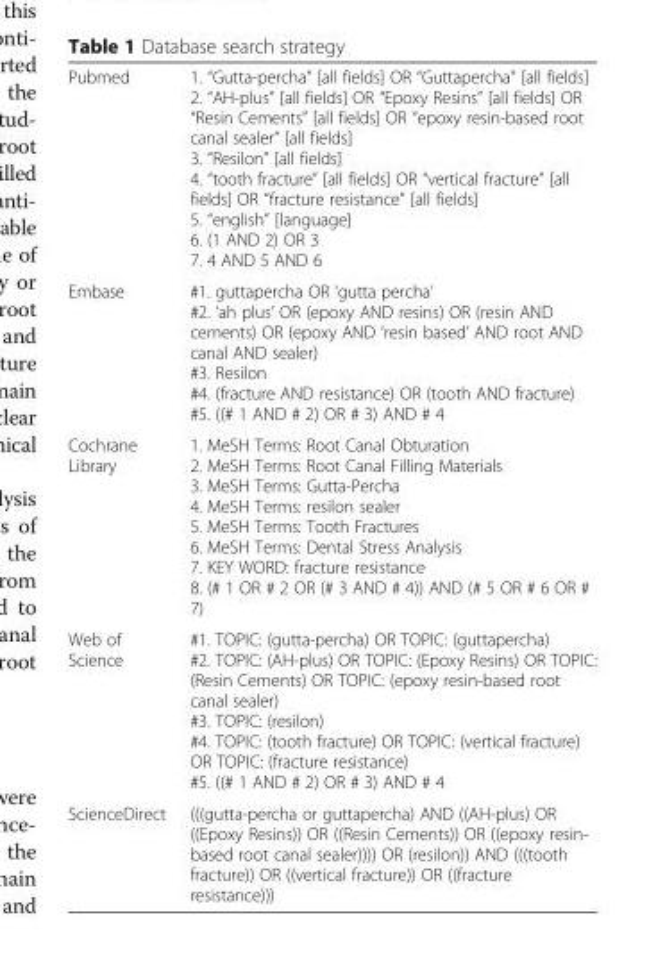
<table><tbody><tr><td>Pubmed</td><td>1. “Gutta-percha” [all fields] OR “Guttapercha” [all fields] 2. “AH-plus” [all fields] OR “Epoxy Resins” [all fields] OR “Resin Cements” [all fields] OR “epoxy resin-based root canal sealer” [all fields] 3. “Resilon” [all fields] 4. “tooth fracture” [all fields] OR “vertical fracture” [all fields] OR “fracture resistance” [all fields] 5. “english” [language] 6. (1 AND 2) OR 3 7. 4 AND 5 AND 6</td></tr><tr><td>Embase</td><td>#1. guttapercha OR ‘gutta percha’ #2. ‘ah plus’ OR (epoxy AND resins) OR (resin AND cements) OR (epoxy AND ‘resin based’ AND root AND canal AND sealer) #3. Resilon #4. (fracture AND resistance) OR (tooth AND fracture) #5. ((# 1 AND # 2) OR # 3) AND # 4</td></tr><tr><td>Cochrane Library</td><td>1. MeSH Terms: Root Canal Obturation 2. MeSH Terms: Root Canal Filling Materials 3. MeSH Terms: Gutta-Percha 4. MeSH Terms: resilon sealer 5. MeSH Terms: Tooth Fractures 6. MeSH Terms: Dental Stress Analysis 7. KEY WORD: fracture resistance 8. (# 1 OR # 2 OR (# 3 AND # 4)) AND (# 5 OR # 6 OR # 7)</td></tr><tr><td>Web of Science</td><td>#1. TOPIC: (gutta-percha) OR TOPIC: (guttapercha) #2. TOPIC: (AH-plus) OR TOPIC: (Epoxy Resins) OR TOPIC: (Resin Cements) OR TOPIC: (epoxy resin-based root canal sealer) #3. TOPIC: (resilon) #4. TOPIC: (tooth fracture) OR TOPIC: (vertical fracture) OR TOPIC: (fracture resistance) #5. ((# 1 AND # 2) OR # 3) AND # 4</td></tr><tr><td>ScienceDirect</td><td>(((gutta-percha or guttapercha) AND ((AH-plus) OR ((Epoxy Resins)) OR ((Resin Cements)) OR ((epoxy resin- based root canal sealer)))) OR (resilon)) AND (((tooth fracture)) OR ((vertical fracture)) OR ((fracture resistance)))</td></tr></tbody></table>